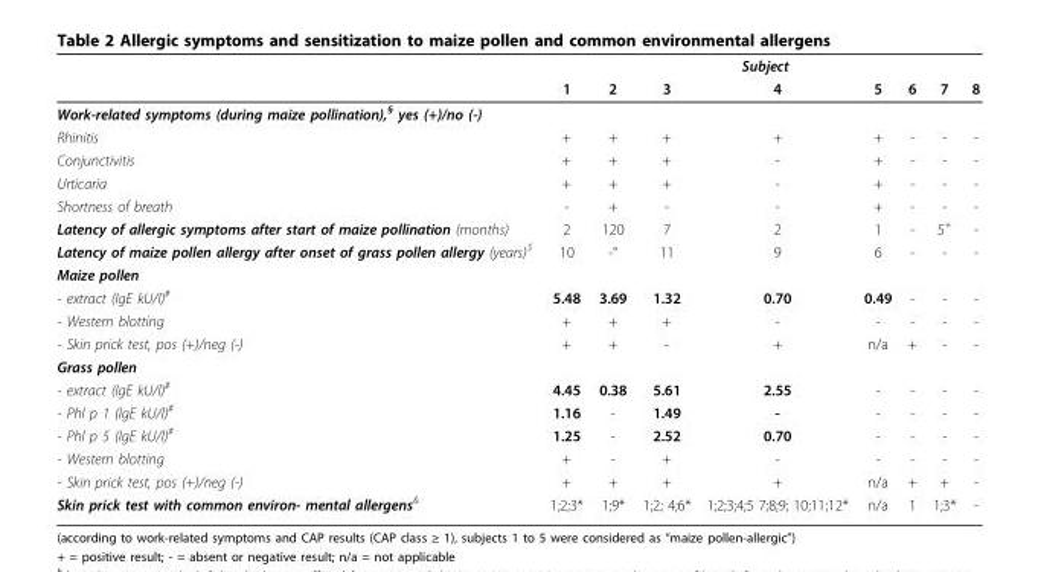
<table><thead><tr><td rowspan="2"></td><td colspan="8">Subject</td></tr><tr><td>1</td><td>2</td><td>3</td><td>4</td><td>5</td><td>6</td><td>7</td><td>8</td></tr></thead><tbody><tr><td colspan="9">Work-related symptoms (during maize pollination),<sup>§</sup> yes (+)/no (-)</td></tr><tr><td>Rhinitis</td><td>+</td><td>+</td><td>+</td><td>+</td><td>+</td><td>-</td><td>-</td><td>-</td></tr><tr><td>Conjunctivitis</td><td>+</td><td>+</td><td>+</td><td>-</td><td>+</td><td>-</td><td>-</td><td>-</td></tr><tr><td>Urticaria</td><td>+</td><td>+</td><td>+</td><td>-</td><td>+</td><td>-</td><td>-</td><td>-</td></tr><tr><td>Shortness of breath</td><td>-</td><td>+</td><td>-</td><td>-</td><td>+</td><td>-</td><td>-</td><td>-</td></tr><tr><td>Latency of allergic symptoms after start of maize pollination (months)</td><td>2</td><td>120</td><td>7</td><td>2</td><td>1</td><td>-</td><td>5<sup>+</sup></td><td>-</td></tr><tr><td>Latency of maize pollen allergy after onset of grass pollen allergy (years)<sup>$</sup></td><td>10</td><td>-°</td><td>11</td><td>9</td><td>6</td><td>-</td><td>-</td><td>-</td></tr><tr><td colspan="9">Maize pollen</td></tr><tr><td>- extract (IgE kU/l)<sup>#</sup></td><td>5.48</td><td>3.69</td><td>1.32</td><td>0.70</td><td>0.49</td><td>-</td><td>-</td><td>-</td></tr><tr><td>- Western blotting</td><td>+</td><td>+</td><td>+</td><td>-</td><td>-</td><td>-</td><td>-</td><td>-</td></tr><tr><td>- Skin prick test, pos (+)/neg (-)</td><td>+</td><td>+</td><td>-</td><td>+</td><td>n/a</td><td>+</td><td>-</td><td>-</td></tr><tr><td colspan="9">Grass pollen</td></tr><tr><td>- extract (IgE kU/l)<sup>#</sup></td><td>4.45</td><td>0.38</td><td>5.61</td><td>2.55</td><td>-</td><td>-</td><td>-</td><td>-</td></tr><tr><td>- Phl p 1 (IgE kU/l)<sup>#</sup></td><td>1.16</td><td>-</td><td>1.49</td><td>-</td><td>-</td><td>-</td><td>-</td><td>-</td></tr><tr><td>- Phl p 5 (IgE kU/l)<sup>#</sup></td><td>1.25</td><td>-</td><td>2.52</td><td>0.70</td><td>-</td><td>-</td><td>-</td><td>-</td></tr><tr><td>- Western blotting</td><td>+</td><td>-</td><td>+</td><td>-</td><td>-</td><td>-</td><td>-</td><td>-</td></tr><tr><td>- Skin prick test, pos (+)/neg (-)</td><td>+</td><td>+</td><td>+</td><td>+</td><td>n/a</td><td>+</td><td>+</td><td>-</td></tr><tr><td>Skin prick test with common environ- mental allergens<sup>&amp;</sup></td><td>1;2;3*</td><td>1;9*</td><td>1;2; 4;6*</td><td>1;2;3;4;5 7;8;9; 10;11;12*</td><td>n/a</td><td>1</td><td>1;3*</td><td>-</td></tr></tbody></table>